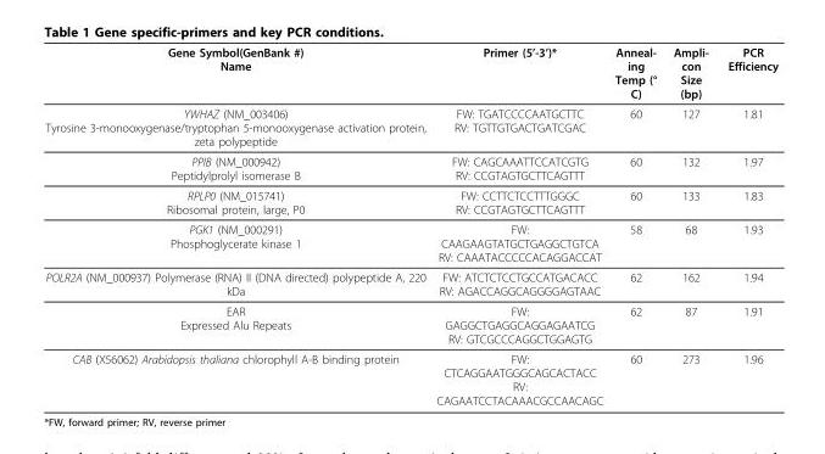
<table><thead><tr><td>Gene Symbol(GenBank #) Name</td><td>Primer (5’-3’)*</td><td>Anneal- ing Temp (° C)</td><td>Ampli- con Size (bp)</td><td>PCR Efficiency</td></tr></thead><tbody><tr><td>YWHAZ (NM_003406) Tyrosine 3-monooxygenase/tryptophan 5-monooxygenase activation protein, zeta polypeptide</td><td>FW: TGATCCCCAATGCTTC RV: TGTTGTGACTGATCGAC</td><td>60</td><td>127</td><td>1.81</td></tr><tr><td>PPIB (NM_000942) Peptidylprolyl isomerase B</td><td>FW: CAGCAAATTCCATCGTG RV: CCGTAGTGCTTCAGTTT</td><td>60</td><td>132</td><td>1.97</td></tr><tr><td>RPLP0 (NM_015741) Ribosomal protein, large, P0</td><td>FW: CCTTCTCCTTTGGGC RV: CCGTAGTGCTTCAGTTT</td><td>60</td><td>133</td><td>1.83</td></tr><tr><td>PGK1 (NM_000291) Phosphoglycerate kinase 1</td><td>FW: CAAGAAGTATGCTGAGGCTGTCA RV: CAAATACCCCCACAGGACCAT</td><td>58</td><td>68</td><td>1.93</td></tr><tr><td>POLR2A (NM_000937) Polymerase (RNA) II (DNA directed) polypeptide A, 220 kDa</td><td>FW: ATCTCTCCTGCCATGACACC RV: AGACCAGGCAGGGGAGTAAC</td><td>62</td><td>162</td><td>1.94</td></tr><tr><td>EAR Expressed Alu Repeats</td><td>FW: GAGGCTGAGGCAGGAGAATCG RV: GTCGCCCAGGCTGGAGTG</td><td>62</td><td>87</td><td>1.91</td></tr><tr><td>CAB (X56062) Arabidopsis thaliana chlorophyll A-B binding protein</td><td>FW: CTCAGGAATGGGCAGCACTACC RV: CAGAATCCTACAAACGCCAACAGC</td><td>60</td><td>273</td><td>1.96</td></tr></tbody></table>